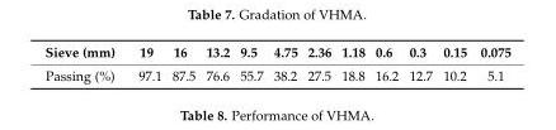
<table><thead><tr><td>Sieve (mm)</td><td>19</td><td>16</td><td>13.2</td><td>9.5</td><td>4.75</td><td>2.36</td><td>1.18</td><td>0.6</td><td>0.3</td><td>0.15</td><td>0.075</td></tr></thead><tbody><tr><td>Passing (%)</td><td>97.1</td><td>87.5</td><td>76.6</td><td>55.7</td><td>38.2</td><td>27.5</td><td>18.8</td><td>16.2</td><td>12.7</td><td>10.2</td><td>5.1</td></tr></tbody></table>